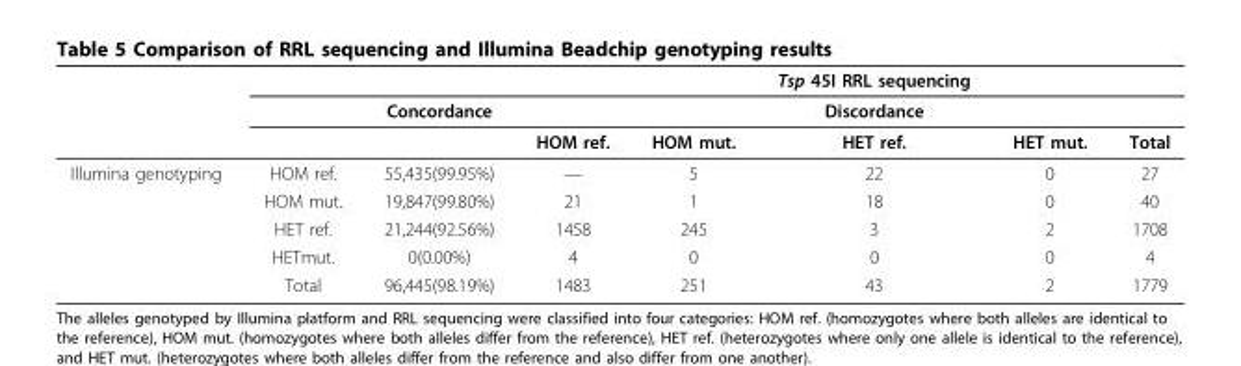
<table><thead><tr><td rowspan="3"></td><td rowspan="3"></td><td rowspan="3">Concordance</td><td rowspan="3">HOM ref.</td><td rowspan="3">HOM mut.</td><td rowspan="3">Tsp 45I RRL sequencing Discordance HET ref.</td><td rowspan="3">HET mut.</td><td rowspan="3">Total</td></tr><tr></tr><tr></tr></thead><tbody><tr><td rowspan="5">Illumina genotyping</td><td>HOM ref.</td><td>55,435(99.95%)</td><td>—</td><td>5</td><td>22</td><td>0</td><td>27</td></tr><tr><td>HOM mut.</td><td>19,847(99.80%)</td><td>21</td><td>1</td><td>18</td><td>0</td><td>40</td></tr><tr><td>HET ref.</td><td>21,244(92.56%)</td><td>1458</td><td>245</td><td>3</td><td>2</td><td>1708</td></tr><tr><td>HETmut.</td><td>0(0.00%)</td><td>4</td><td>0</td><td>0</td><td>0</td><td>4</td></tr><tr><td>Total</td><td>96,445(98.19%)</td><td>1483</td><td>251</td><td>43</td><td>2</td><td>1779</td></tr></tbody></table>